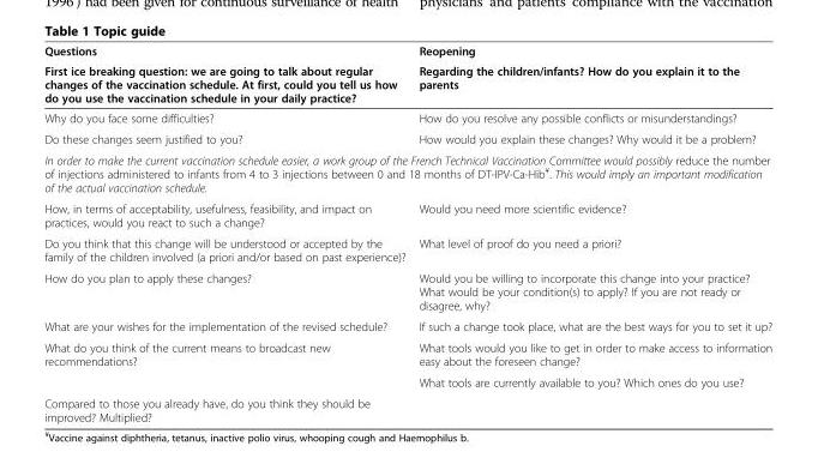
<table><thead><tr><td rowspan="2">Questions First ice breaking question: we are going to talk about regular changes of the vaccination schedule. At first, could you tell us how do you use the vaccination schedule in your daily practice?</td><td rowspan="2">Reopening Regarding the children/infants? How do you explain it to the parents</td></tr><tr></tr></thead><tbody><tr><td>Why do you face some difficulties?</td><td>How do you resolve any possible conflicts or misunderstandings?</td></tr><tr><td>Do these changes seem justified to you?</td><td>How would you explain these changes? Why would it be a problem?</td></tr><tr><td colspan="2">In order to make the current vaccination schedule easier, a work group of the French Technical Vaccination Committee would possibly reduce the number of injections administered to infants from 4 to 3 injections between 0 and 18 months of DT-IPV-Ca-Hib<sup>¥</sup>. This would imply an important modification of the actual vaccination schedule.</td></tr><tr><td>How, in terms of acceptability, usefulness, feasibility, and impact on practices, would you react to such a change?</td><td>Would you need more scientific evidence?</td></tr><tr><td>Do you think that this change will be understood or accepted by the family of the children involved (a priori and/or based on past experience)?</td><td>What level of proof do you need a priori?</td></tr><tr><td>How do you plan to apply these changes?</td><td>Would you be willing to incorporate this change into your practice? What would be your condition(s) to apply? If you are not ready or disagree, why?</td></tr><tr><td>What are your wishes for the implementation of the revised schedule?</td><td>If such a change took place, what are the best ways for you to set it up?</td></tr><tr><td rowspan="2">What do you think of the current means to broadcast new recommendations?</td><td>What tools would you like to get in order to make access to information easy about the foreseen change?</td></tr><tr><td>What tools are currently available to you? Which ones do you use?</td></tr><tr><td>Compared to those you already have, do you think they should be improved? Multiplied?</td><td></td></tr></tbody></table>